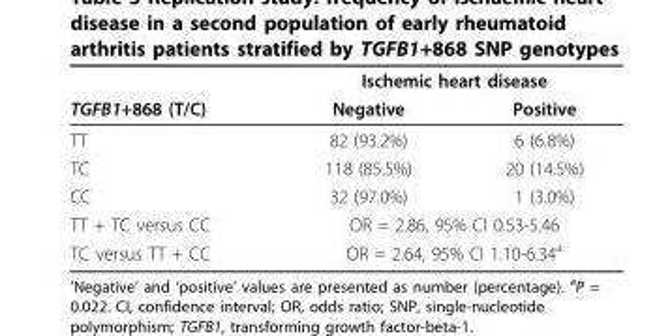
<table><thead><tr><td rowspan="2">TGFB1+868 (T/C)</td><td colspan="2">Ischemic heart disease</td></tr><tr><td>Negative</td><td>Positive</td></tr></thead><tbody><tr><td>TT</td><td>82 (93.2%)</td><td>6 (6.8%)</td></tr><tr><td>TC</td><td>118 (85.5%)</td><td>20 (14.5%)</td></tr><tr><td>CC</td><td>32 (97.0%)</td><td>1 (3.0%)</td></tr><tr><td>TT + TC versus CC</td><td colspan="2">OR = 2.86, 95% CI 0.53-5.46</td></tr><tr><td>TC versus TT + CC</td><td colspan="2">OR = 2.64, 95% CI 1.10-6.34<sup>a</sup></td></tr></tbody></table>